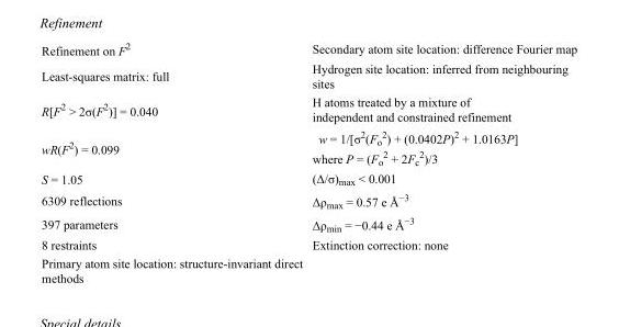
<table><tbody><tr><td>Refinement on F<sup>2</sup></td><td>Secondary atom site location: difference Fourier map</td></tr><tr><td>Least-squares matrix: full</td><td>Hydrogen site location: inferred from neighbouring sites</td></tr><tr><td>R[F<sup>2</sup> &gt; 2σ(F<sup>2</sup>)] = 0.040</td><td>H atoms treated by a mixture of independent and constrained refinement</td></tr><tr><td>wR(F<sup>2</sup>) = 0.099</td><td>w = 1/[σ<sup>2</sup>(F<sub>o</sub> <sup>2</sup>) + (0.0402P)<sup>2</sup> + 1.0163P] where P = (F<sub>o</sub> <sup>2</sup> + 2F<sub>c</sub> <sup>2</sup>)/3</td></tr><tr><td>S = 1.05</td><td>(Δ/σ)<sub>max</sub> &lt; 0.001</td></tr><tr><td>6309 reflections</td><td>Δρ<sub>max</sub> = 0.57 e Å<sup>−3</sup></td></tr><tr><td>397 parameters</td><td>Δρ<sub>min</sub> = −0.44 e Å<sup>−3</sup></td></tr><tr><td>8 restraints</td><td>Extinction correction: none</td></tr><tr><td>Primary atom site location: structure-invariant direct methods</td><td></td></tr></tbody></table>